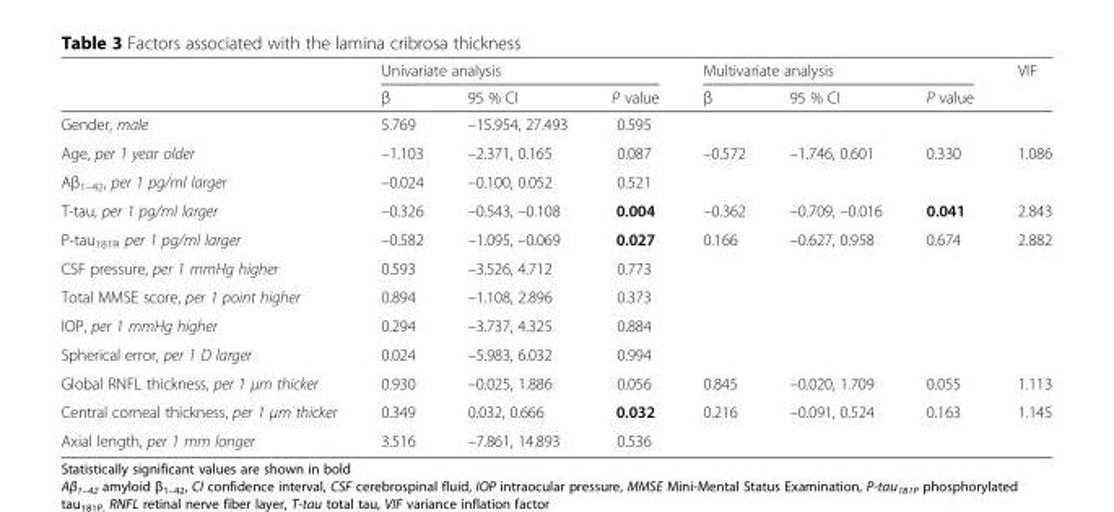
<table><thead><tr><td rowspan="2"></td><td colspan="3">Univariate analysis</td><td colspan="3">Multivariate analysis</td><td rowspan="2">VIF</td></tr><tr><td>β</td><td>95 % CI</td><td>P value</td><td>β</td><td>95 % CI</td><td>P value</td></tr></thead><tbody><tr><td>Gender, male</td><td>5.769</td><td>–15.954, 27.493</td><td>0.595</td><td></td><td></td><td></td><td></td></tr><tr><td>Age, per 1 year older</td><td>–1.103</td><td>–2.371, 0.165</td><td>0.087</td><td>–0.572</td><td>–1.746, 0.601</td><td>0.330</td><td>1.086</td></tr><tr><td>Aβ<sub>1–42</sub>, per 1 pg/ml larger</td><td>–0.024</td><td>–0.100, 0.052</td><td>0.521</td><td></td><td></td><td></td><td></td></tr><tr><td>T-tau, per 1 pg/ml larger</td><td>–0.326</td><td>–0.543, –0.108</td><td>0.004</td><td>–0.362</td><td>–0.709, –0.016</td><td>0.041</td><td>2.843</td></tr><tr><td>P-tau<sub>181P</sub>, per 1 pg/ml larger</td><td>–0.582</td><td>–1.095, –0.069</td><td>0.027</td><td>0.166</td><td>–0.627, 0.958</td><td>0.674</td><td>2.882</td></tr><tr><td>CSF pressure, per 1 mmHg higher</td><td>0.593</td><td>–3.526, 4.712</td><td>0.773</td><td></td><td></td><td></td><td></td></tr><tr><td>Total MMSE score, per 1 point higher</td><td>0.894</td><td>–1.108, 2.896</td><td>0.373</td><td></td><td></td><td></td><td></td></tr><tr><td>IOP, per 1 mmHg higher</td><td>0.294</td><td>–3.737, 4.325</td><td>0.884</td><td></td><td></td><td></td><td></td></tr><tr><td>Spherical error, per 1 D larger</td><td>0.024</td><td>–5.983, 6.032</td><td>0.994</td><td></td><td></td><td></td><td></td></tr><tr><td>Global RNFL thickness, per 1 μm thicker</td><td>0.930</td><td>–0.025, 1.886</td><td>0.056</td><td>0.845</td><td>–0.020, 1.709</td><td>0.055</td><td>1.113</td></tr><tr><td>Central corneal thickness, per 1 μm thicker</td><td>0.349</td><td>0.032, 0.666</td><td>0.032</td><td>0.216</td><td>–0.091, 0.524</td><td>0.163</td><td>1.145</td></tr><tr><td>Axial length, per 1 mm longer</td><td>3.516</td><td>–7.861, 14.893</td><td>0.536</td><td></td><td></td><td></td><td></td></tr></tbody></table>